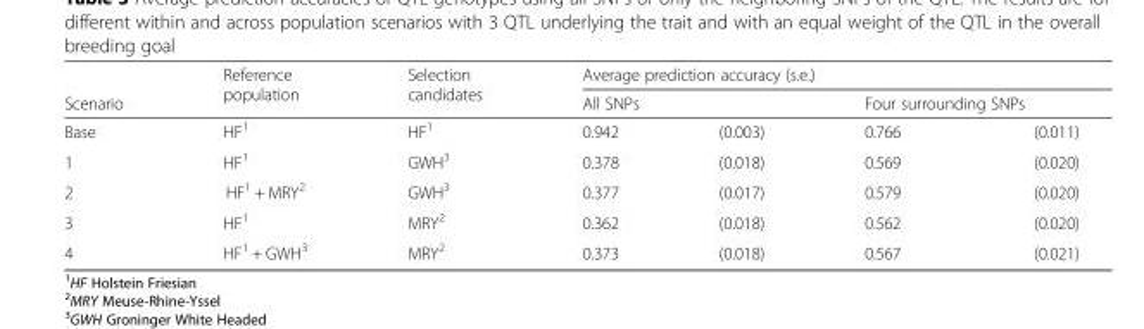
<table><thead><tr><td rowspan="3">Scenario Base</td><td rowspan="3">Reference population HF<sup>1</sup></td><td rowspan="3">Selection candidates HF<sup>1</sup></td><td colspan="4">Average prediction accuracy (s.e.)</td></tr><tr><td colspan="2">All SNPs</td><td colspan="2">Four surrounding SNPs</td></tr><tr><td>0.942</td><td>(0.003)</td><td>0.766</td><td>(0.011)</td></tr></thead><tbody><tr><td>1</td><td>HF<sup>1</sup></td><td>GWH<sup>3</sup></td><td>0.378</td><td>(0.018)</td><td>0.569</td><td>(0.020)</td></tr><tr><td>2</td><td>HF<sup>1</sup> + MRY<sup>2</sup></td><td>GWH<sup>3</sup></td><td>0.377</td><td>(0.017)</td><td>0.579</td><td>(0.020)</td></tr><tr><td>3</td><td>HF<sup>1</sup></td><td>MRY<sup>2</sup></td><td>0.362</td><td>(0.018)</td><td>0.562</td><td>(0.020)</td></tr><tr><td>4</td><td>HF<sup>1</sup> + GWH<sup>3</sup></td><td>MRY<sup>2</sup></td><td>0.373</td><td>(0.018)</td><td>0.567</td><td>(0.021)</td></tr></tbody></table>